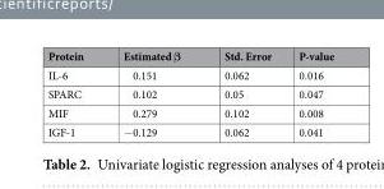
<table><thead><tr><td>Protein</td><td>Estimated β</td><td>Std. Error</td><td>P-value</td></tr></thead><tbody><tr><td>IL-6</td><td>0.151</td><td>0.062</td><td>0.016</td></tr><tr><td>SPARC</td><td>0.102</td><td>0.05</td><td>0.047</td></tr><tr><td>MIF</td><td>0.279</td><td>0.102</td><td>0.008</td></tr><tr><td>IGF-1</td><td>−0.129</td><td>0.062</td><td>0.041</td></tr></tbody></table>